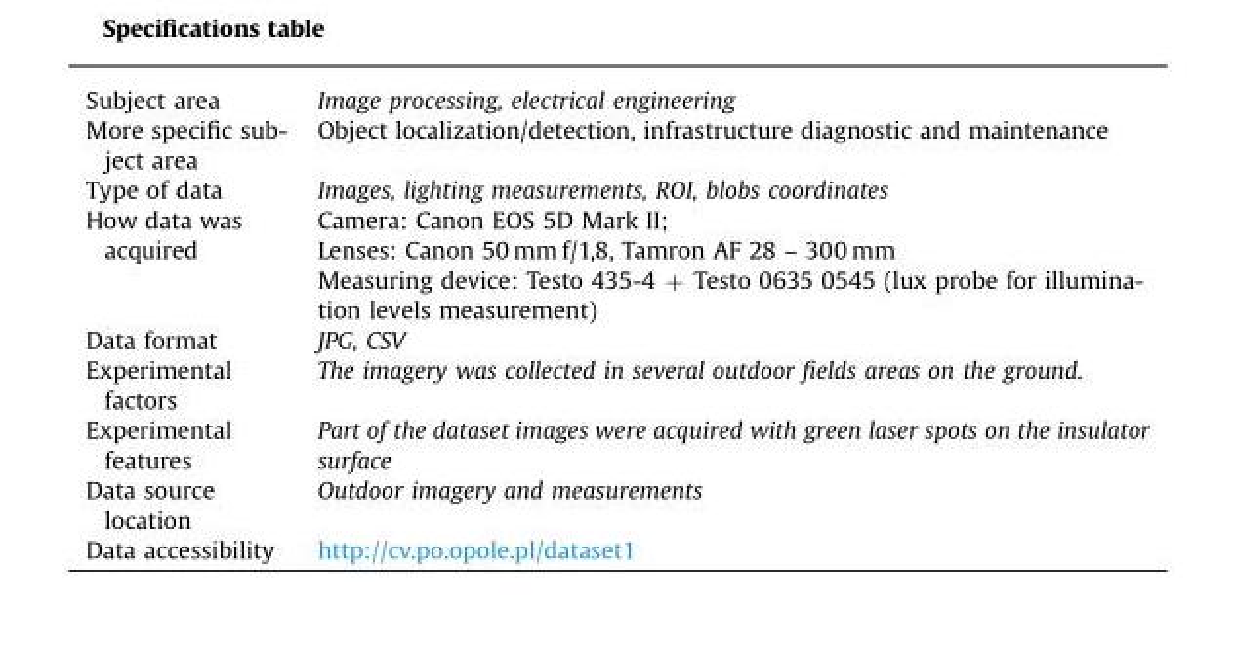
<table><tbody><tr><td>Subject area</td><td>Image processing, electrical engineering</td></tr><tr><td>More specific sub- ject area</td><td>Object localization/detection, infrastructure diagnostic and maintenance</td></tr><tr><td>Type of data</td><td>Images, lighting measurements, ROI, blobs coordinates</td></tr><tr><td rowspan="3">How data was acquired</td><td>Camera: Canon EOS 5D Mark II;</td></tr><tr><td>Lenses: Canon 50 mm f/1,8, Tamron AF 28 – 300 mm</td></tr><tr><td>Measuring device: Testo 435-4 þ Testo 0635 0545 (lux probe for illumina- tion levels measurement)</td></tr><tr><td>Data format</td><td>JPG, CSV</td></tr><tr><td>Experimental factors</td><td>The imagery was collected in several outdoor fields areas on the ground.</td></tr><tr><td>Experimental features</td><td>Part of the dataset images were acquired with green laser spots on the insulator surface</td></tr><tr><td>Data source location</td><td>Outdoor imagery and measurements</td></tr><tr><td>Data accessibility</td><td>http://cv.po.opole.pl/dataset1</td></tr></tbody></table>